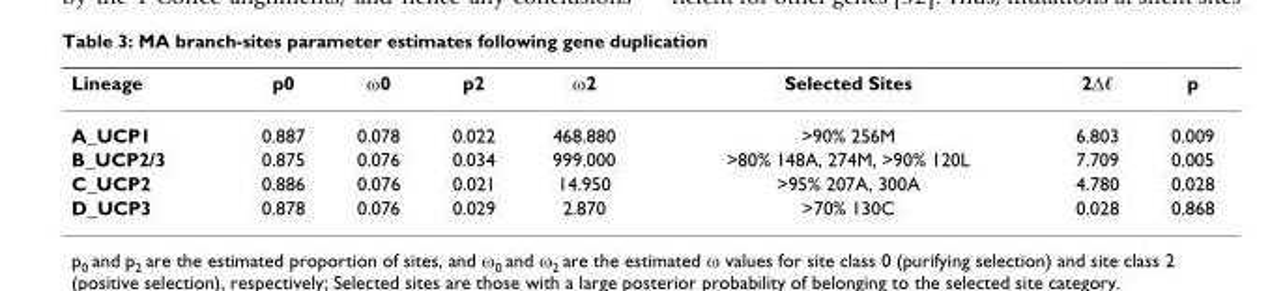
<table><thead><tr><td>Lineage</td><td>p0</td><td>ω0</td><td>p2</td><td>ω2</td><td>Selected Sites</td><td>2Δℓ</td><td>p</td></tr></thead><tbody><tr><td>A_UCP1</td><td>0.887</td><td>0.078</td><td>0.022</td><td>468.880</td><td>&gt;90% 256M</td><td>6.803</td><td>0.009</td></tr><tr><td>B_UCP2/3</td><td>0.875</td><td>0.076</td><td>0.034</td><td>999.000</td><td>&gt;80% 148A, 274M, &gt;90% 120L</td><td>7.709</td><td>0.005</td></tr><tr><td>C_UCP2</td><td>0.886</td><td>0.076</td><td>0.021</td><td>14.950</td><td>&gt;95% 207A, 300A</td><td>4.780</td><td>0.028</td></tr><tr><td>D_UCP3</td><td>0.878</td><td>0.076</td><td>0.029</td><td>2.870</td><td>&gt;70% 130C</td><td>0.028</td><td>0.868</td></tr></tbody></table>